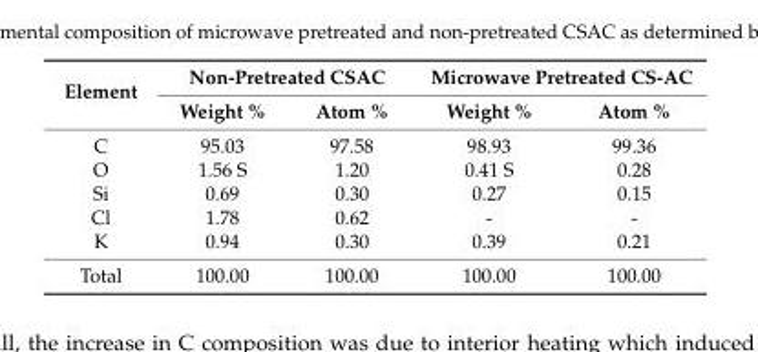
<table><thead><tr><td rowspan="2">Element</td><td colspan="2">Non-Pretreated CSAC</td><td colspan="2">Microwave Pretreated CS-AC</td></tr><tr><td>Weight %</td><td>Atom %</td><td>Weight %</td><td>Atom %</td></tr></thead><tbody><tr><td>C</td><td>95.03</td><td>97.58</td><td>98.93</td><td>99.36</td></tr><tr><td>O</td><td>1.56 S</td><td>1.20</td><td>0.41 S</td><td>0.28</td></tr><tr><td>Si</td><td>0.69</td><td>0.30</td><td>0.27</td><td>0.15</td></tr><tr><td>Cl</td><td>1.78</td><td>0.62</td><td>-</td><td>-</td></tr><tr><td>K</td><td>0.94</td><td>0.30</td><td>0.39</td><td>0.21</td></tr><tr><td>Total</td><td>100.00</td><td>100.00</td><td>100.00</td><td>100.00</td></tr></tbody></table>